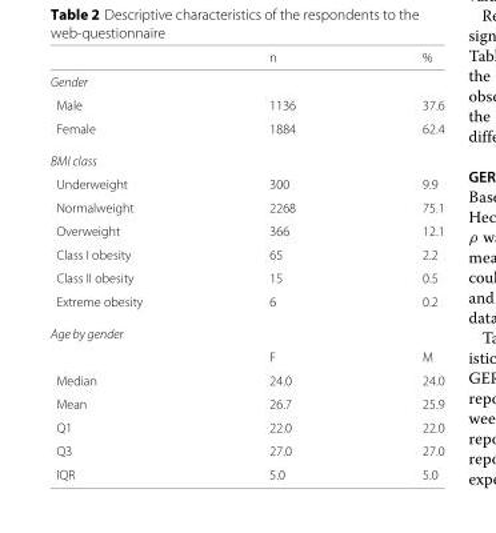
<table><thead><tr><td></td><td>n</td><td>%</td></tr></thead><tbody><tr><td colspan="3">Gender</td></tr><tr><td>Male</td><td>1136</td><td>37.6</td></tr><tr><td>Female</td><td>1884</td><td>62.4</td></tr><tr><td colspan="3">BMI class</td></tr><tr><td>Underweight</td><td>300</td><td>9.9</td></tr><tr><td>Normalweight</td><td>2268</td><td>75.1</td></tr><tr><td>Overweight</td><td>366</td><td>12.1</td></tr><tr><td>Class I obesity</td><td>65</td><td>2.2</td></tr><tr><td>Class II obesity</td><td>15</td><td>0.5</td></tr><tr><td>Extreme obesity</td><td>6</td><td>0.2</td></tr><tr><td colspan="3">Age by gender</td></tr><tr><td></td><td>F</td><td>M</td></tr><tr><td>Median</td><td>24.0</td><td>24.0</td></tr><tr><td>Mean</td><td>26.7</td><td>25.9</td></tr><tr><td>Q1</td><td>22.0</td><td>22.0</td></tr><tr><td>Q3</td><td>27.0</td><td>27.0</td></tr><tr><td>IQR</td><td>5.0</td><td>5.0</td></tr></tbody></table>